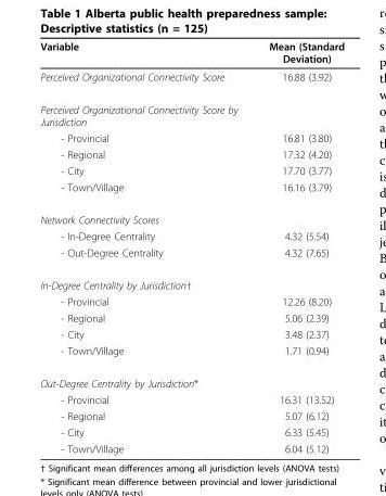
<table><thead><tr><td>Variable</td><td>Mean (Standard Deviation)</td></tr></thead><tbody><tr><td>Perceived Organizational Connectivity Score</td><td>16.88 (3.92)</td></tr><tr><td colspan="2">Perceived Organizational Connectivity Score by Jurisdiction</td></tr><tr><td>- Provincial</td><td>16.81 (3.80)</td></tr><tr><td>- Regional</td><td>17.32 (4.20)</td></tr><tr><td>- City</td><td>17.70 (3.77)</td></tr><tr><td>- Town/Village</td><td>16.16 (3.79)</td></tr><tr><td colspan="2">Network Connectivity Scores</td></tr><tr><td>- In-Degree Centrality</td><td>4.32 (5.54)</td></tr><tr><td>- Out-Degree Centrality</td><td>4.32 (7.65)</td></tr><tr><td colspan="2">In-Degree Centrality by Jurisdiction†</td></tr><tr><td>- Provincial</td><td>12.26 (8.20)</td></tr><tr><td>- Regional</td><td>5.06 (2.39)</td></tr><tr><td>- City</td><td>3.48 (2.37)</td></tr><tr><td>- Town/Village</td><td>1.71 (0.94)</td></tr><tr><td colspan="2">Out-Degree Centrality by Jurisdiction*</td></tr><tr><td>- Provincial</td><td>16.31 (13.52)</td></tr><tr><td>- Regional</td><td>5.07 (6.12)</td></tr><tr><td>- City</td><td>6.33 (5.45)</td></tr><tr><td>- Town/Village</td><td>6.04 (5.12)</td></tr></tbody></table>